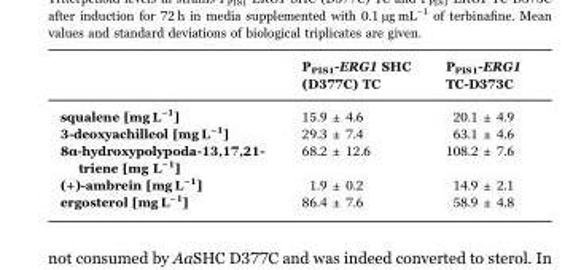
<table><thead><tr><td></td><td>P<sub>PIS1</sub>-ERG1 SHC (D377C) TC</td><td>P<sub>PIS1</sub>-ERG1 TC-D373C</td></tr></thead><tbody><tr><td>squalene [mg L<sup>−1</sup>]</td><td>15.9 ± 4.6</td><td>20.1 ± 4.9</td></tr><tr><td>3-deoxyachilleol [mg L<sup>−1</sup>]</td><td>29.3 ± 7.4</td><td>63.1 ± 4.6</td></tr><tr><td>8α-hydroxypolypoda-13,17,21- triene [mg L<sup>−1</sup>]</td><td>68.2 ± 12.6</td><td>108.2 ± 7.6</td></tr><tr><td>(+)-ambrein [mg L<sup>−1</sup>]</td><td>1.9 ± 0.2</td><td>14.9 ± 2.1</td></tr><tr><td>ergosterol [mg L<sup>−1</sup>]</td><td>86.4 ± 7.6</td><td>58.9 ± 4.8</td></tr></tbody></table>